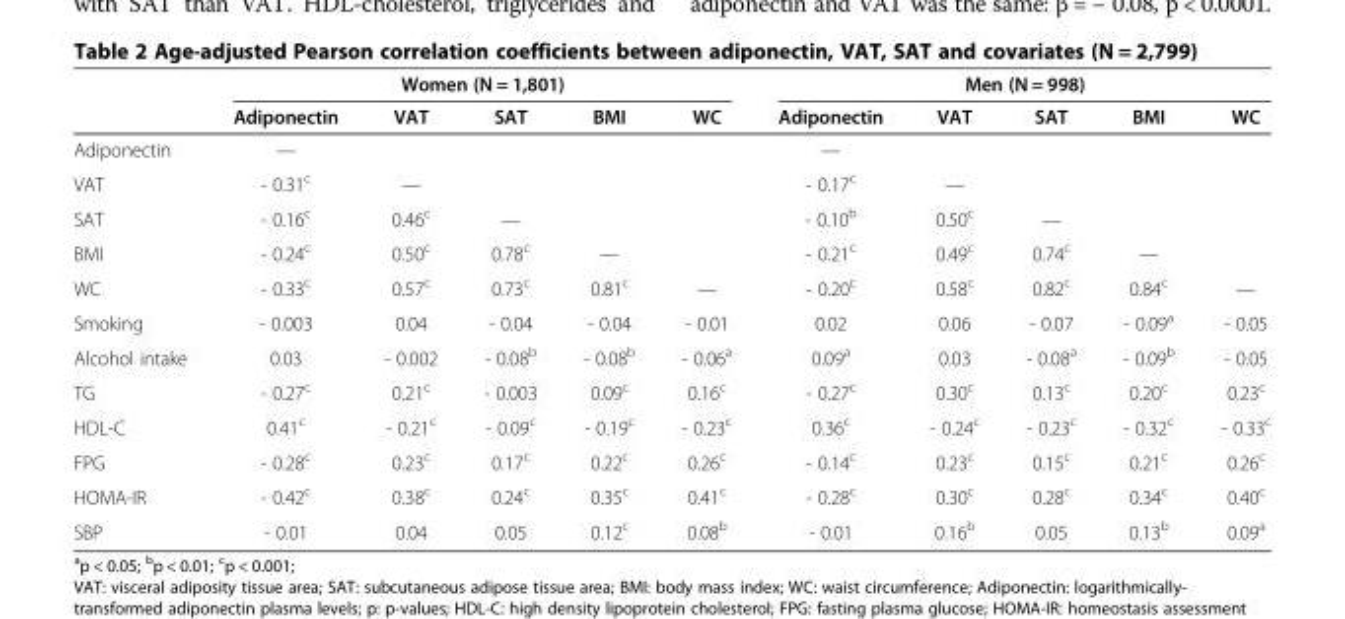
<table><thead><tr><td rowspan="2"></td><td colspan="5">Women (N = 1,801)</td><td colspan="5">Men (N = 998)</td></tr><tr><td>Adiponectin</td><td>VAT</td><td>SAT</td><td>BMI</td><td>WC</td><td>Adiponectin</td><td>VAT</td><td>SAT</td><td>BMI</td><td>WC</td></tr></thead><tbody><tr><td>Adiponectin</td><td>—</td><td></td><td></td><td></td><td></td><td>—</td><td></td><td></td><td></td><td></td></tr><tr><td>VAT</td><td>- 0.31<sup>c</sup></td><td>—</td><td></td><td></td><td></td><td>- 0.17<sup>c</sup></td><td>—</td><td></td><td></td><td></td></tr><tr><td>SAT</td><td>- 0.16<sup>c</sup></td><td>0.46<sup>c</sup></td><td>—</td><td></td><td></td><td>- 0.10<sup>b</sup></td><td>0.50<sup>c</sup></td><td>—</td><td></td><td></td></tr><tr><td>BMI</td><td>- 0.24<sup>c</sup></td><td>0.50<sup>c</sup></td><td>0.78<sup>c</sup></td><td>—</td><td></td><td>- 0.21<sup>c</sup></td><td>0.49<sup>c</sup></td><td>0.74<sup>c</sup></td><td>—</td><td></td></tr><tr><td>WC</td><td>- 0.33<sup>c</sup></td><td>0.57<sup>c</sup></td><td>0.73<sup>c</sup></td><td>0.81<sup>c</sup></td><td>—</td><td>- 0.20<sup>c</sup></td><td>0.58<sup>c</sup></td><td>0.82<sup>c</sup></td><td>0.84<sup>c</sup></td><td>—</td></tr><tr><td>Smoking</td><td>- 0.003</td><td>0.04</td><td>- 0.04</td><td>- 0.04</td><td>- 0.01</td><td>0.02</td><td>0.06</td><td>- 0.07</td><td>- 0.09<sup>a</sup></td><td>- 0.05</td></tr><tr><td>Alcohol intake</td><td>0.03</td><td>- 0.002</td><td>- 0.08<sup>b</sup></td><td>- 0.08<sup>b</sup></td><td>- 0.06<sup>a</sup></td><td>0.09<sup>a</sup></td><td>0.03</td><td>- 0.08<sup>a</sup></td><td>- 0.09<sup>b</sup></td><td>- 0.05</td></tr><tr><td>TG</td><td>- 0.27<sup>c</sup></td><td>0.21<sup>c</sup></td><td>- 0.003</td><td>0.09<sup>c</sup></td><td>0.16<sup>c</sup></td><td>- 0.27<sup>c</sup></td><td>0.30<sup>c</sup></td><td>0.13<sup>c</sup></td><td>0.20<sup>c</sup></td><td>0.23<sup>c</sup></td></tr><tr><td>HDL-C</td><td>0.41<sup>c</sup></td><td>- 0.21<sup>c</sup></td><td>- 0.09<sup>c</sup></td><td>- 0.19<sup>c</sup></td><td>- 0.23<sup>c</sup></td><td>0.36<sup>c</sup></td><td>- 0.24<sup>c</sup></td><td>- 0.23<sup>c</sup></td><td>- 0.32<sup>c</sup></td><td>- 0.33<sup>c</sup></td></tr><tr><td>FPG</td><td>- 0.28<sup>c</sup></td><td>0.23<sup>c</sup></td><td>0.17<sup>c</sup></td><td>0.22<sup>c</sup></td><td>0.26<sup>c</sup></td><td>- 0.14<sup>c</sup></td><td>0.23<sup>c</sup></td><td>0.15<sup>c</sup></td><td>0.21<sup>c</sup></td><td>0.26<sup>c</sup></td></tr><tr><td>HOMA-IR</td><td>- 0.42<sup>c</sup></td><td>0.38<sup>c</sup></td><td>0.24<sup>c</sup></td><td>0.35<sup>c</sup></td><td>0.41<sup>c</sup></td><td>- 0.28<sup>c</sup></td><td>0.30<sup>c</sup></td><td>0.28<sup>c</sup></td><td>0.34<sup>c</sup></td><td>0.40<sup>c</sup></td></tr><tr><td>SBP</td><td>- 0.01</td><td>0.04</td><td>0.05</td><td>0.12<sup>c</sup></td><td>0.08<sup>b</sup></td><td>- 0.01</td><td>0.16<sup>b</sup></td><td>0.05</td><td>0.13<sup>b</sup></td><td>0.09<sup>a</sup></td></tr></tbody></table>